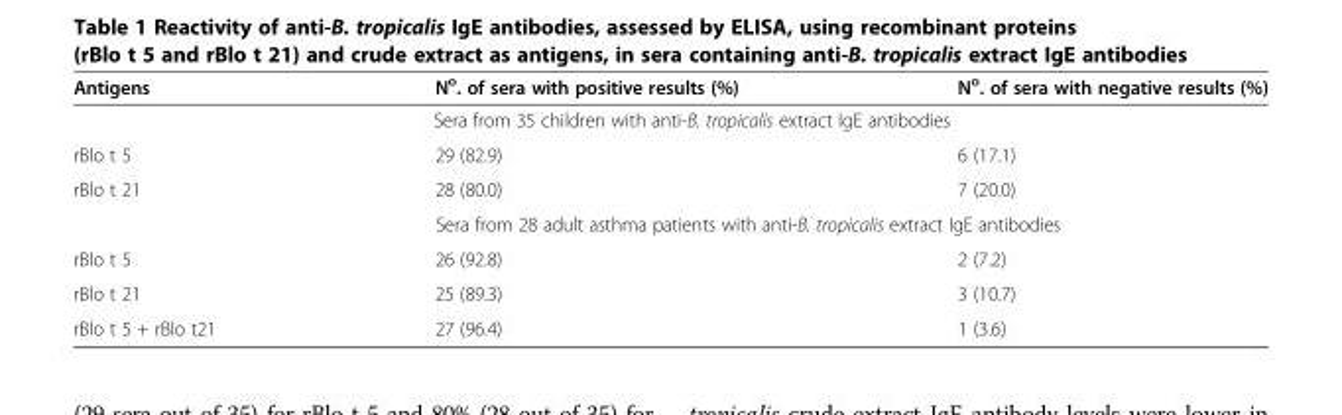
<table><thead><tr><td>Antigens</td><td>N<sup>o</sup>. of sera with positive results (%)</td><td>N<sup>o</sup>. of sera with negative results (%)</td></tr></thead><tbody><tr><td></td><td colspan="2">Sera from 35 children with anti-B. tropicalis extract IgE antibodies</td></tr><tr><td>rBlo t 5</td><td>29 (82.9)</td><td>6 (17.1)</td></tr><tr><td rowspan="2">rBlo t 21</td><td>28 (80.0)</td><td>7 (20.0)</td></tr><tr><td colspan="2">Sera from 28 adult asthma patients with anti-B. tropicalis extract IgE antibodies</td></tr><tr><td>rBlo t 5</td><td>26 (92.8)</td><td>2 (7.2)</td></tr><tr><td>rBlo t 21</td><td>25 (89.3)</td><td>3 (10.7)</td></tr><tr><td>rBlo t 5 + rBlo t21</td><td>27 (96.4)</td><td>1 (3.6)</td></tr></tbody></table>